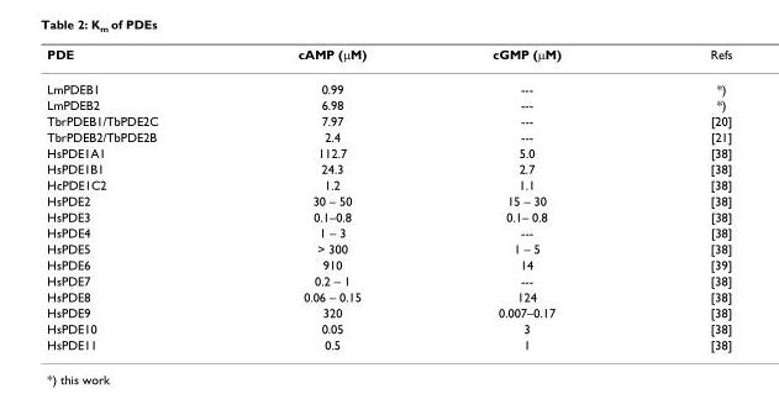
<table><thead><tr><td>PDE</td><td>cAMP (µM)</td><td>cGMP (µM)</td><td>Refs</td></tr></thead><tbody><tr><td>LmPDEB1</td><td>0.99</td><td>---</td><td>*)</td></tr><tr><td>LmPDEB2</td><td>6.98</td><td>---</td><td>*)</td></tr><tr><td>TbrPDEB1/TbPDE2C</td><td>7.97</td><td>---</td><td>[20]</td></tr><tr><td>TbrPDEB2/TbPDE2B</td><td>2.4</td><td>---</td><td>[21]</td></tr><tr><td>HsPDE1A1</td><td>112.7</td><td>5.0</td><td>[38]</td></tr><tr><td>HsPDE1B1</td><td>24.3</td><td>2.7</td><td>[38]</td></tr><tr><td>HcPDE1C2</td><td>1.2</td><td>1.1</td><td>[38]</td></tr><tr><td>HsPDE2</td><td>30 – 50</td><td>15 – 30</td><td>[38]</td></tr><tr><td>HsPDE3</td><td>0.1–0.8</td><td>0.1– 0.8</td><td>[38]</td></tr><tr><td>HsPDE4</td><td>1 – 3</td><td>---</td><td>[38]</td></tr><tr><td>HsPDE5</td><td>&gt; 300</td><td>1 – 5</td><td>[38]</td></tr><tr><td>HsPDE6</td><td>910</td><td>14</td><td>[39]</td></tr><tr><td>HsPDE7</td><td>0.2 – 1</td><td>---</td><td>[38]</td></tr><tr><td>HsPDE8</td><td>0.06 – 0.15</td><td>124</td><td>[38]</td></tr><tr><td>HsPDE9</td><td>320</td><td>0.007–0.17</td><td>[38]</td></tr><tr><td>HsPDE10</td><td>0.05</td><td>3</td><td>[38]</td></tr><tr><td>HsPDE11</td><td>0.5</td><td>1</td><td>[38]</td></tr></tbody></table>